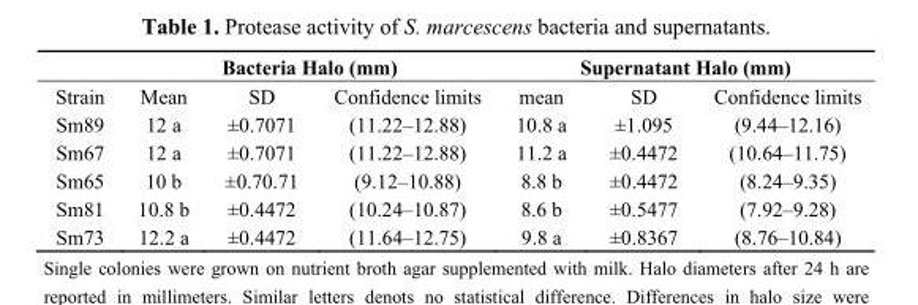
<table><thead><tr><td rowspan="2">Strain</td><td colspan="3">Bacteria Halo (mm)</td><td colspan="3">Supernatant Halo (mm)</td></tr><tr><td>Mean</td><td>SD</td><td>Confidence limits</td><td>mean</td><td>SD</td><td>Confidence limits</td></tr></thead><tbody><tr><td>Sm89</td><td>12 a</td><td>±0.7071</td><td>(11.22–12.88)</td><td>10.8 a</td><td>±1.095</td><td>(9.44–12.16)</td></tr><tr><td>Sm67</td><td>12 a</td><td>±0.7071</td><td>(11.22–12.88)</td><td>11.2 a</td><td>±0.4472</td><td>(10.64–11.75)</td></tr><tr><td>Sm65</td><td>10 b</td><td>±0.70.71</td><td>(9.12–10.88)</td><td>8.8 b</td><td>±0.4472</td><td>(8.24–9.35)</td></tr><tr><td>Sm81</td><td>10.8 b</td><td>±0.4472</td><td>(10.24–10.87)</td><td>8.6 b</td><td>±0.5477</td><td>(7.92–9.28)</td></tr><tr><td>Sm73</td><td>12.2 a</td><td>±0.4472</td><td>(11.64–12.75)</td><td>9.8 a</td><td>±0.8367</td><td>(8.76–10.84)</td></tr></tbody></table>